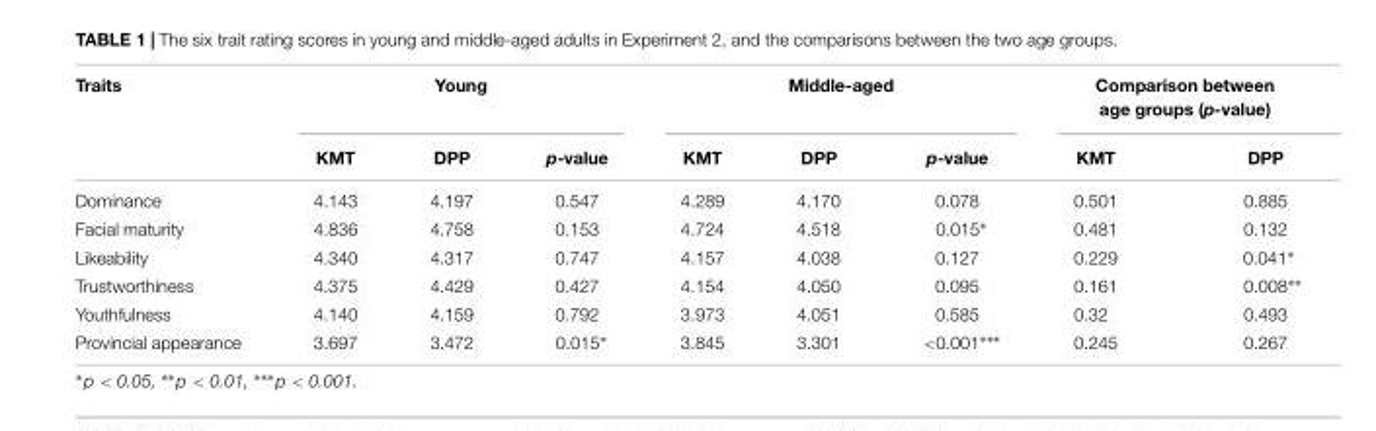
<table><thead><tr><td rowspan="2">Traits</td><td colspan="3">Young</td><td colspan="3">Middle-aged</td><td colspan="2">Comparison between age groups (p-value)</td></tr><tr><td>KMT</td><td>DPP</td><td>p-value</td><td>KMT</td><td>DPP</td><td>p-value</td><td>KMT</td><td>DPP</td></tr></thead><tbody><tr><td>Dominance</td><td>4.143</td><td>4.197</td><td>0.547</td><td>4.289</td><td>4.170</td><td>0.078</td><td>0.501</td><td>0.885</td></tr><tr><td>Facial maturity</td><td>4.836</td><td>4.758</td><td>0.153</td><td>4.724</td><td>4.518</td><td>0.015∗</td><td>0.481</td><td>0.132</td></tr><tr><td>Likeability</td><td>4.340</td><td>4.317</td><td>0.747</td><td>4.157</td><td>4.038</td><td>0.127</td><td>0.229</td><td>0.041∗</td></tr><tr><td>Trustworthiness</td><td>4.375</td><td>4.429</td><td>0.427</td><td>4.154</td><td>4.050</td><td>0.095</td><td>0.161</td><td>0.008∗∗</td></tr><tr><td>Youthfulness</td><td>4.140</td><td>4.159</td><td>0.792</td><td>3.973</td><td>4.051</td><td>0.585</td><td>0.32</td><td>0.493</td></tr><tr><td>Provincial appearance</td><td>3.697</td><td>3.472</td><td>0.015∗</td><td>3.845</td><td>3.301</td><td>&lt;0.001∗∗∗</td><td>0.245</td><td>0.267</td></tr></tbody></table>